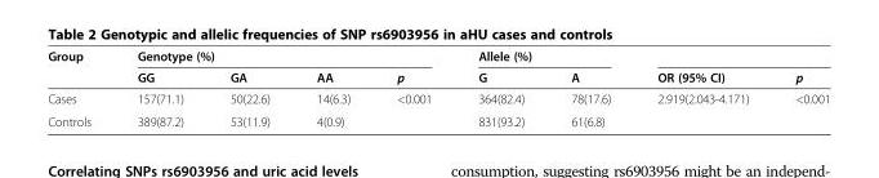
<table><thead><tr><td rowspan="2">Group</td><td colspan="4">Genotype (%)</td><td colspan="2">Allele (%)</td><td rowspan="2">OR (95% CI)</td><td rowspan="2">p</td></tr><tr><td>GG</td><td>GA</td><td>AA</td><td>p</td><td>G</td><td>A</td></tr></thead><tbody><tr><td>Cases</td><td>157(71.1)</td><td>50(22.6)</td><td>14(6.3)</td><td>&lt;0.001</td><td>364(82.4)</td><td>78(17.6)</td><td>2.919(2.043-4.171)</td><td>&lt;0.001</td></tr><tr><td>Controls</td><td>389(87.2)</td><td>53(11.9)</td><td>4(0.9)</td><td></td><td>831(93.2)</td><td>61(6.8)</td><td></td><td></td></tr></tbody></table>